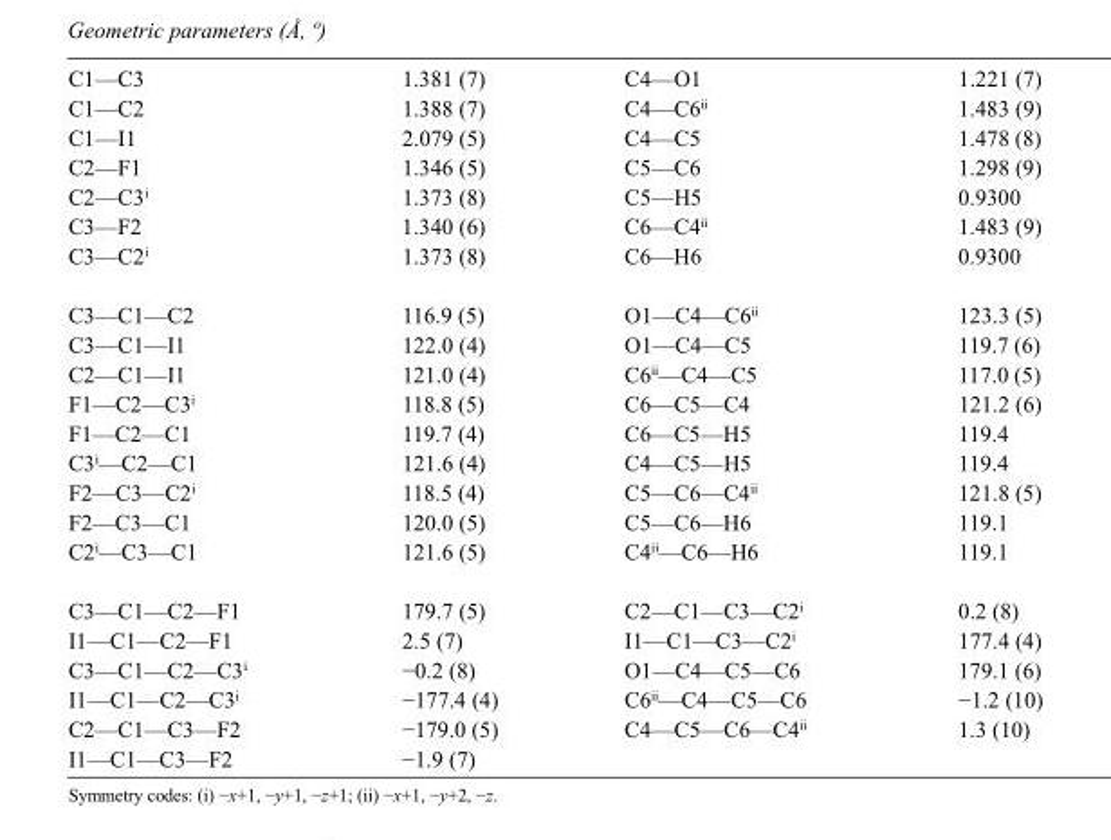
<table><tbody><tr><td>C1—C3</td><td>1.381 (7)</td><td>C4—O1</td><td>1.221 (7)</td></tr><tr><td>C1—C2</td><td>1.388 (7)</td><td>C4—C6<sup>ii</sup></td><td>1.483 (9)</td></tr><tr><td>C1—I1</td><td>2.079 (5)</td><td>C4—C5</td><td>1.478 (8)</td></tr><tr><td>C2—F1</td><td>1.346 (5)</td><td>C5—C6</td><td>1.298 (9)</td></tr><tr><td>C2—C3<sup>i</sup></td><td>1.373 (8)</td><td>C5—H5</td><td>0.9300</td></tr><tr><td>C3—F2</td><td>1.340 (6)</td><td>C6—C4<sup>ii</sup></td><td>1.483 (9)</td></tr><tr><td>C3—C2<sup>i</sup></td><td>1.373 (8)</td><td>C6—H6</td><td>0.9300</td></tr><tr><td>C3—C1—C2</td><td>116.9 (5)</td><td>O1—C4—C6<sup>ii</sup></td><td>123.3 (5)</td></tr><tr><td>C3—C1—I1</td><td>122.0 (4)</td><td>O1—C4—C5</td><td>119.7 (6)</td></tr><tr><td>C2—C1—I1</td><td>121.0 (4)</td><td>C6<sup>ii</sup>—C4—C5</td><td>117.0 (5)</td></tr><tr><td>F1—C2—C3<sup>i</sup></td><td>118.8 (5)</td><td>C6—C5—C4</td><td>121.2 (6)</td></tr><tr><td>F1—C2—C1</td><td>119.7 (4)</td><td>C6—C5—H5</td><td>119.4</td></tr><tr><td>C3<sup>i</sup>—C2—C1</td><td>121.6 (4)</td><td>C4—C5—H5</td><td>119.4</td></tr><tr><td>F2—C3—C2<sup>i</sup></td><td>118.5 (4)</td><td>C5—C6—C4<sup>ii</sup></td><td>121.8 (5)</td></tr><tr><td>F2—C3—C1</td><td>120.0 (5)</td><td>C5—C6—H6</td><td>119.1</td></tr><tr><td>C2<sup>i</sup>—C3—C1</td><td>121.6 (5)</td><td>C4<sup>ii</sup>—C6—H6</td><td>119.1</td></tr><tr><td>C3—C1—C2—F1</td><td>179.7 (5)</td><td>C2—C1—C3—C2<sup>i</sup></td><td>0.2 (8)</td></tr><tr><td>I1—C1—C2—F1</td><td>2.5 (7)</td><td>I1—C1—C3—C2<sup>i</sup></td><td>177.4 (4)</td></tr><tr><td>C3—C1—C2—C3<sup>i</sup></td><td>−0.2 (8)</td><td>O1—C4—C5—C6</td><td>179.1 (6)</td></tr><tr><td>I1—C1—C2—C3<sup>i</sup></td><td>−177.4 (4)</td><td>C6<sup>ii</sup>—C4—C5—C6</td><td>−1.2 (10)</td></tr><tr><td>C2—C1—C3—F2</td><td>−179.0 (5)</td><td>C4—C5—C6—C4<sup>ii</sup></td><td>1.3 (10)</td></tr><tr><td>I1—C1—C3—F2</td><td>−1.9 (7)</td><td></td><td></td></tr></tbody></table>